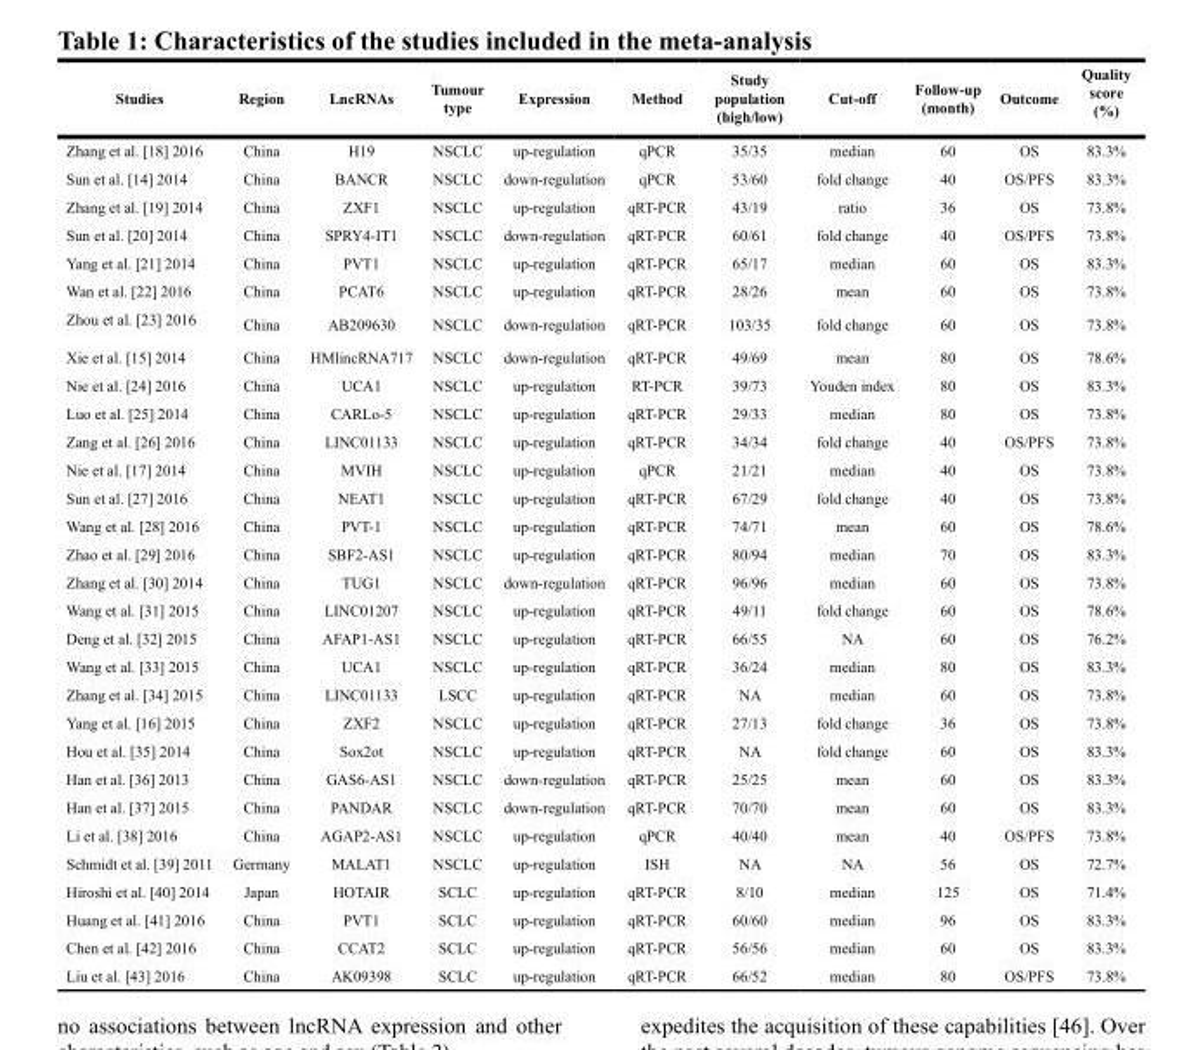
<table><thead><tr><td>Studies</td><td>Region</td><td>LncRNAs</td><td>Tumour type</td><td>Expression</td><td>Method</td><td>Study population (high/low)</td><td>Cut-off</td><td>Follow-up (month)</td><td>Outcome</td><td>Quality score (%)</td></tr></thead><tbody><tr><td>Zhang et al. [18] 2016</td><td>China</td><td>H19</td><td>NSCLC</td><td>up-regulation</td><td>qPCR</td><td>35/35</td><td>median</td><td>60</td><td>OS</td><td>83.3%</td></tr><tr><td>Sun et al. [14] 2014</td><td>China</td><td>BANCR</td><td>NSCLC</td><td>down-regulation</td><td>qPCR</td><td>53/60</td><td>fold change</td><td>40</td><td>OS/PFS</td><td>83.3%</td></tr><tr><td>Zhang et al. [19] 2014</td><td>China</td><td>ZXF1</td><td>NSCLC</td><td>up-regulation</td><td>qRT-PCR</td><td>43/19</td><td>ratio</td><td>36</td><td>OS</td><td>73.8%</td></tr><tr><td>Sun et al. [20] 2014</td><td>China</td><td>SPRY4-IT1</td><td>NSCLC</td><td>down-regulation</td><td>qRT-PCR</td><td>60/61</td><td>fold change</td><td>40</td><td>OS/PFS</td><td>73.8%</td></tr><tr><td>Yang et al. [21] 2014</td><td>China</td><td>PVT1</td><td>NSCLC</td><td>up-regulation</td><td>qRT-PCR</td><td>65/17</td><td>median</td><td>60</td><td>OS</td><td>83.3%</td></tr><tr><td>Wan et al. [22] 2016</td><td>China</td><td>PCAT6</td><td>NSCLC</td><td>up-regulation</td><td>qRT-PCR</td><td>28/26</td><td>mean</td><td>60</td><td>OS</td><td>73.8%</td></tr><tr><td>Zhou et al. [23] 2016</td><td>China</td><td>AB209630</td><td>NSCLC</td><td>down-regulation</td><td>qRT-PCR</td><td>103/35</td><td>fold change</td><td>60</td><td>OS</td><td>73.8%</td></tr><tr><td>Xie et al. [15] 2014</td><td>China</td><td>HMlincRNA717</td><td>NSCLC</td><td>down-regulation</td><td>qRT-PCR</td><td>49/69</td><td>mean</td><td>80</td><td>OS</td><td>78.6%</td></tr><tr><td>Nie et al. [24] 2016</td><td>China</td><td>UCA1</td><td>NSCLC</td><td>up-regulation</td><td>RT-PCR</td><td>39/73</td><td>Youden index</td><td>80</td><td>OS</td><td>83.3%</td></tr><tr><td>Luo et al. [25] 2014</td><td>China</td><td>CARLo-5</td><td>NSCLC</td><td>up-regulation</td><td>qRT-PCR</td><td>29/33</td><td>median</td><td>80</td><td>OS</td><td>73.8%</td></tr><tr><td>Zang et al. [26] 2016</td><td>China</td><td>LINC01133</td><td>NSCLC</td><td>up-regulation</td><td>qRT-PCR</td><td>34/34</td><td>fold change</td><td>40</td><td>OS/PFS</td><td>73.8%</td></tr><tr><td>Nie et al. [17] 2014</td><td>China</td><td>MVIH</td><td>NSCLC</td><td>up-regulation</td><td>qPCR</td><td>21/21</td><td>median</td><td>40</td><td>OS</td><td>73.8%</td></tr><tr><td>Sun et al. [27] 2016</td><td>China</td><td>NEAT1</td><td>NSCLC</td><td>up-regulation</td><td>qRT-PCR</td><td>67/29</td><td>fold change</td><td>40</td><td>OS</td><td>73.8%</td></tr><tr><td>Wang et al. [28] 2016</td><td>China</td><td>PVT-1</td><td>NSCLC</td><td>up-regulation</td><td>qRT-PCR</td><td>74/71</td><td>mean</td><td>60</td><td>OS</td><td>78.6%</td></tr><tr><td>Zhao et al. [29] 2016</td><td>China</td><td>SBF2-AS1</td><td>NSCLC</td><td>up-regulation</td><td>qRT-PCR</td><td>80/94</td><td>median</td><td>70</td><td>OS</td><td>83.3%</td></tr><tr><td>Zhang et al. [30] 2014</td><td>China</td><td>TUG1</td><td>NSCLC</td><td>down-regulation</td><td>qRT-PCR</td><td>96/96</td><td>median</td><td>60</td><td>OS</td><td>73.8%</td></tr><tr><td>Wang et al. [31] 2015</td><td>China</td><td>LINC01207</td><td>NSCLC</td><td>up-regulation</td><td>qRT-PCR</td><td>49/11</td><td>fold change</td><td>60</td><td>OS</td><td>78.6%</td></tr><tr><td>Deng et al. [32] 2015</td><td>China</td><td>AFAP1-AS1</td><td>NSCLC</td><td>up-regulation</td><td>qRT-PCR</td><td>66/55</td><td>NA</td><td>60</td><td>OS</td><td>76.2%</td></tr><tr><td>Wang et al. [33] 2015</td><td>China</td><td>UCA1</td><td>NSCLC</td><td>up-regulation</td><td>qRT-PCR</td><td>36/24</td><td>median</td><td>80</td><td>OS</td><td>83.3%</td></tr><tr><td>Zhang et al. [34] 2015</td><td>China</td><td>LINC01133</td><td>LSCC</td><td>up-regulation</td><td>qRT-PCR</td><td>NA</td><td>median</td><td>60</td><td>OS</td><td>73.8%</td></tr><tr><td>Yang et al. [16] 2015</td><td>China</td><td>ZXF2</td><td>NSCLC</td><td>up-regulation</td><td>qRT-PCR</td><td>27/13</td><td>fold change</td><td>36</td><td>OS</td><td>73.8%</td></tr><tr><td>Hou et al. [35] 2014</td><td>China</td><td>Sox2ot</td><td>NSCLC</td><td>up-regulation</td><td>qRT-PCR</td><td>NA</td><td>fold change</td><td>60</td><td>OS</td><td>83.3%</td></tr><tr><td>Han et al. [36] 2013</td><td>China</td><td>GAS6-AS1</td><td>NSCLC</td><td>down-regulation</td><td>qRT-PCR</td><td>25/25</td><td>mean</td><td>60</td><td>OS</td><td>83.3%</td></tr><tr><td>Han et al. [37] 2015</td><td>China</td><td>PANDAR</td><td>NSCLC</td><td>down-regulation</td><td>qRT-PCR</td><td>70/70</td><td>mean</td><td>60</td><td>OS</td><td>83.3%</td></tr><tr><td>Li et al. [38] 2016</td><td>China</td><td>AGAP2-AS1</td><td>NSCLC</td><td>up-regulation</td><td>qPCR</td><td>40/40</td><td>mean</td><td>40</td><td>OS/PFS</td><td>73.8%</td></tr><tr><td>Schmidt et al. [39] 2011</td><td>Germany</td><td>MALAT1</td><td>NSCLC</td><td>up-regulation</td><td>ISH</td><td>NA</td><td>NA</td><td>56</td><td>OS</td><td>72.7%</td></tr><tr><td>Hiroshi et al. [40] 2014</td><td>Japan</td><td>HOTAIR</td><td>SCLC</td><td>up-regulation</td><td>qRT-PCR</td><td>8/10</td><td>median</td><td>125</td><td>OS</td><td>71.4%</td></tr><tr><td>Huang et al. [41] 2016</td><td>China</td><td>PVT1</td><td>SCLC</td><td>up-regulation</td><td>qRT-PCR</td><td>60/60</td><td>median</td><td>96</td><td>OS</td><td>83.3%</td></tr><tr><td>Chen et al. [42] 2016</td><td>China</td><td>CCAT2</td><td>SCLC</td><td>up-regulation</td><td>qRT-PCR</td><td>56/56</td><td>median</td><td>60</td><td>OS</td><td>83.3%</td></tr><tr><td>Liu et al. [43] 2016</td><td>China</td><td>AK09398</td><td>SCLC</td><td>up-regulation</td><td>qRT-PCR</td><td>66/52</td><td>median</td><td>80</td><td>OS/PFS</td><td>73.8%</td></tr></tbody></table>